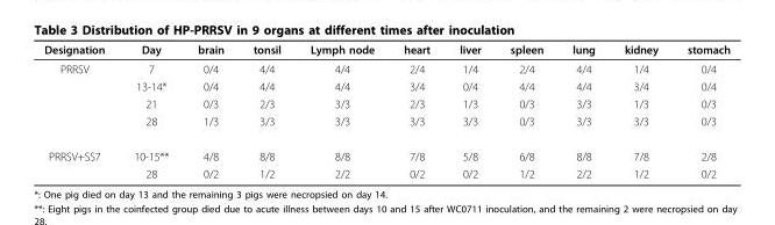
<table><thead><tr><td>Designation</td><td>Day</td><td>brain</td><td>tonsil</td><td>Lymph node</td><td>heart</td><td>liver</td><td>spleen</td><td>lung</td><td>kidney</td><td>stomach</td></tr></thead><tbody><tr><td rowspan="4">PRRSV</td><td>7</td><td>0/4</td><td>4/4</td><td>4/4</td><td>2/4</td><td>1/4</td><td>2/4</td><td>4/4</td><td>1/4</td><td>0/4</td></tr><tr><td>13-14*</td><td>0/4</td><td>4/4</td><td>4/4</td><td>3/4</td><td>0/4</td><td>4/4</td><td>4/4</td><td>3/4</td><td>0/4</td></tr><tr><td>21</td><td>0/3</td><td>2/3</td><td>3/3</td><td>2/3</td><td>1/3</td><td>0/3</td><td>3/3</td><td>1/3</td><td>0/3</td></tr><tr><td>28</td><td>1/3</td><td>3/3</td><td>3/3</td><td>3/3</td><td>3/3</td><td>0/3</td><td>3/3</td><td>3/3</td><td>0/3</td></tr><tr><td rowspan="2">PRRSV+SS7</td><td>10-15**</td><td>4/8</td><td>8/8</td><td>8/8</td><td>7/8</td><td>5/8</td><td>6/8</td><td>8/8</td><td>7/8</td><td>2/8</td></tr><tr><td>28</td><td>0/2</td><td>1/2</td><td>2/2</td><td>0/2</td><td>0/2</td><td>1/2</td><td>2/2</td><td>1/2</td><td>0/2</td></tr></tbody></table>